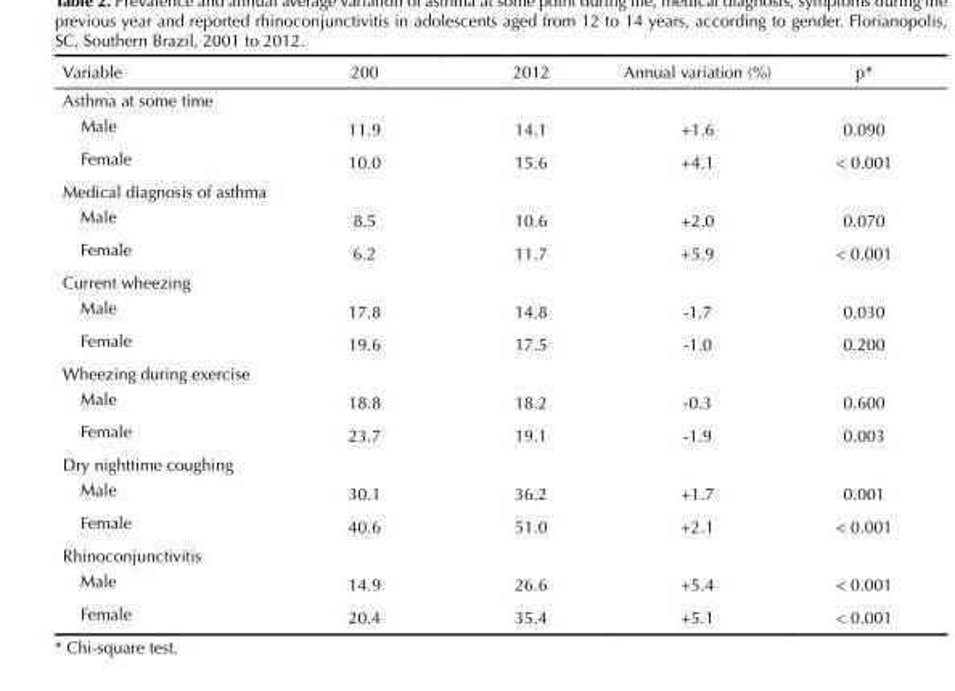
<table><thead><tr><td>Variable</td><td>200</td><td>2012</td><td>Annual variation (%)</td><td>p*</td></tr></thead><tbody><tr><td colspan="5">Asthma at some time</td></tr><tr><td>Male</td><td>11.9</td><td>14.1</td><td>+1.6</td><td>0.090</td></tr><tr><td>Female</td><td>10.0</td><td>15.6</td><td>+4.1</td><td>&lt; 0.001</td></tr><tr><td colspan="5">Medical diagnosis of asthma</td></tr><tr><td>Male</td><td>8.5</td><td>10.6</td><td>+2.0</td><td>0.070</td></tr><tr><td>Female</td><td>6.2</td><td>11.7</td><td>+5.9</td><td>&lt; 0.001</td></tr><tr><td colspan="5">Current wheezing</td></tr><tr><td>Male</td><td>17.8</td><td>14.8</td><td>-1.7</td><td>0.030</td></tr><tr><td>Female</td><td>19.6</td><td>17.5</td><td>-1.0</td><td>0.200</td></tr><tr><td colspan="5">Wheezing during exercise</td></tr><tr><td>Male</td><td>18.8</td><td>18.2</td><td>-0.3</td><td>0.600</td></tr><tr><td>Female</td><td>23.7</td><td>19.1</td><td>-1.9</td><td>0.003</td></tr><tr><td colspan="5">Dry nighttime coughing</td></tr><tr><td>Male</td><td>30.1</td><td>36.2</td><td>+1.7</td><td>0.001</td></tr><tr><td>Female</td><td>40.6</td><td>51.0</td><td>+2.1</td><td>&lt; 0.001</td></tr><tr><td colspan="5">Rhinoconjunctivitis</td></tr><tr><td>Male</td><td>14.9</td><td>26.6</td><td>+5.4</td><td>&lt; 0.001</td></tr><tr><td>Female</td><td>20.4</td><td>35.4</td><td>+5.1</td><td>&lt; 0.001</td></tr></tbody></table>